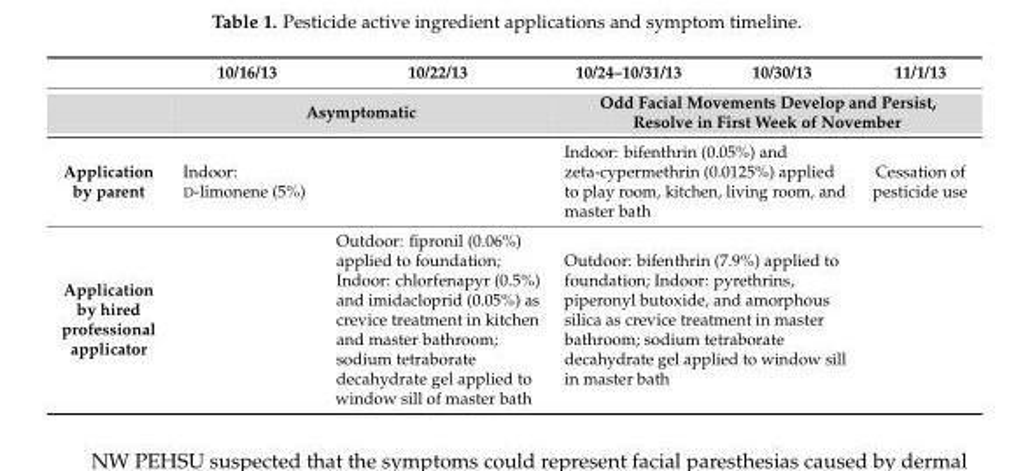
<table><thead><tr><td rowspan="2"></td><td>10/16/13</td><td>10/22/13</td><td>10/24–10/31/13</td><td>10/30/13</td><td>11/1/13</td></tr><tr><td colspan="2">Asymptomatic</td><td colspan="3">Odd Facial Movements Develop and Persist, Resolve in First Week of November</td></tr></thead><tbody><tr><td>Application by parent</td><td>Indoor: D-limonene (5%)</td><td></td><td colspan="2">Indoor: bifenthrin (0.05%) and zeta-cypermethrin (0.0125%) applied to play room, kitchen, living room, and master bath</td><td>Cessation of pesticide use</td></tr><tr><td>Application by hired professional applicator</td><td></td><td>Outdoor: fipronil (0.06%) applied to foundation; Indoor: chlorfenapyr (0.5%) and imidacloprid (0.05%) as crevice treatment in kitchen and master bathroom; sodium tetraborate decahydrate gel applied to window sill of master bath</td><td colspan="2">Outdoor: bifenthrin (7.9%) applied to foundation; Indoor: pyrethrins, piperonyl butoxide, and amorphous silica as crevice treatment in master bathroom; sodium tetraborate decahydrate gel applied to window sill in master bath</td><td></td></tr></tbody></table>